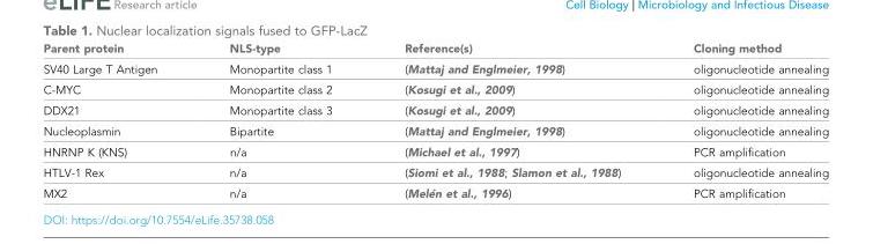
<table><thead><tr><td>Parent protein</td><td>NLS-type</td><td>Reference(s)</td><td>Cloning method</td></tr></thead><tbody><tr><td>SV40 Large T Antigen</td><td>Monopartite class 1</td><td>(Mattaj and Englmeier, 1998)</td><td>oligonucleotide annealing</td></tr><tr><td>C-MYC</td><td>Monopartite class 2</td><td>(Kosugi et al., 2009)</td><td>oligonucleotide annealing</td></tr><tr><td>DDX21</td><td>Monopartite class 3</td><td>(Kosugi et al., 2009)</td><td>oligonucleotide annealing</td></tr><tr><td>Nucleoplasmin</td><td>Bipartite</td><td>(Mattaj and Englmeier, 1998)</td><td>oligonucleotide annealing</td></tr><tr><td>HNRNP K (KNS)</td><td>n/a</td><td>(Michael et al., 1997)</td><td>PCR amplification</td></tr><tr><td>HTLV-1 Rex</td><td>n/a</td><td>(Siomi et al., 1988; Slamon et al., 1988)</td><td>oligonucleotide annealing</td></tr><tr><td>MX2</td><td>n/a</td><td>(Mele´n et al., 1996)</td><td>PCR amplification</td></tr></tbody></table>